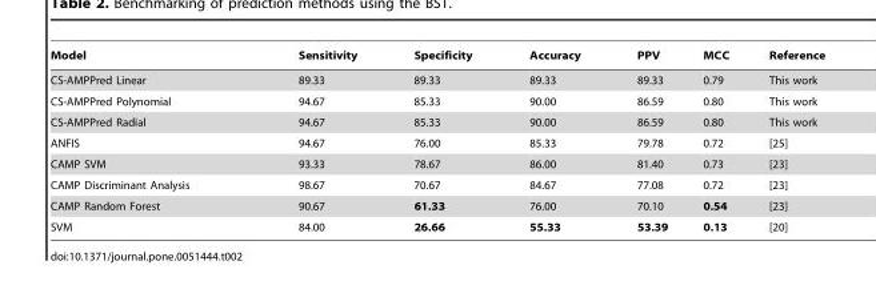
<table><thead><tr><td>Model</td><td>Sensitivity</td><td>Specificity</td><td>Accuracy</td><td>PPV</td><td>MCC</td><td>Reference</td></tr></thead><tbody><tr><td>CS-AMPPred Linear</td><td>89.33</td><td>89.33</td><td>89.33</td><td>89.33</td><td>0.79</td><td>This work</td></tr><tr><td>CS-AMPPred Polynomial</td><td>94.67</td><td>85.33</td><td>90.00</td><td>86.59</td><td>0.80</td><td>This work</td></tr><tr><td>CS-AMPPred Radial</td><td>94.67</td><td>85.33</td><td>90.00</td><td>86.59</td><td>0.80</td><td>This work</td></tr><tr><td>ANFIS</td><td>94.67</td><td>76.00</td><td>85.33</td><td>79.78</td><td>0.72</td><td>[25]</td></tr><tr><td>CAMP SVM</td><td>93.33</td><td>78.67</td><td>86.00</td><td>81.40</td><td>0.73</td><td>[23]</td></tr><tr><td>CAMP Discriminant Analysis</td><td>98.67</td><td>70.67</td><td>84.67</td><td>77.08</td><td>0.72</td><td>[23]</td></tr><tr><td>CAMP Random Forest</td><td>90.67</td><td>61.33</td><td>76.00</td><td>70.10</td><td>0.54</td><td>[23]</td></tr><tr><td>SVM</td><td>84.00</td><td>26.66</td><td>55.33</td><td>53.39</td><td>0.13</td><td>[20]</td></tr></tbody></table>